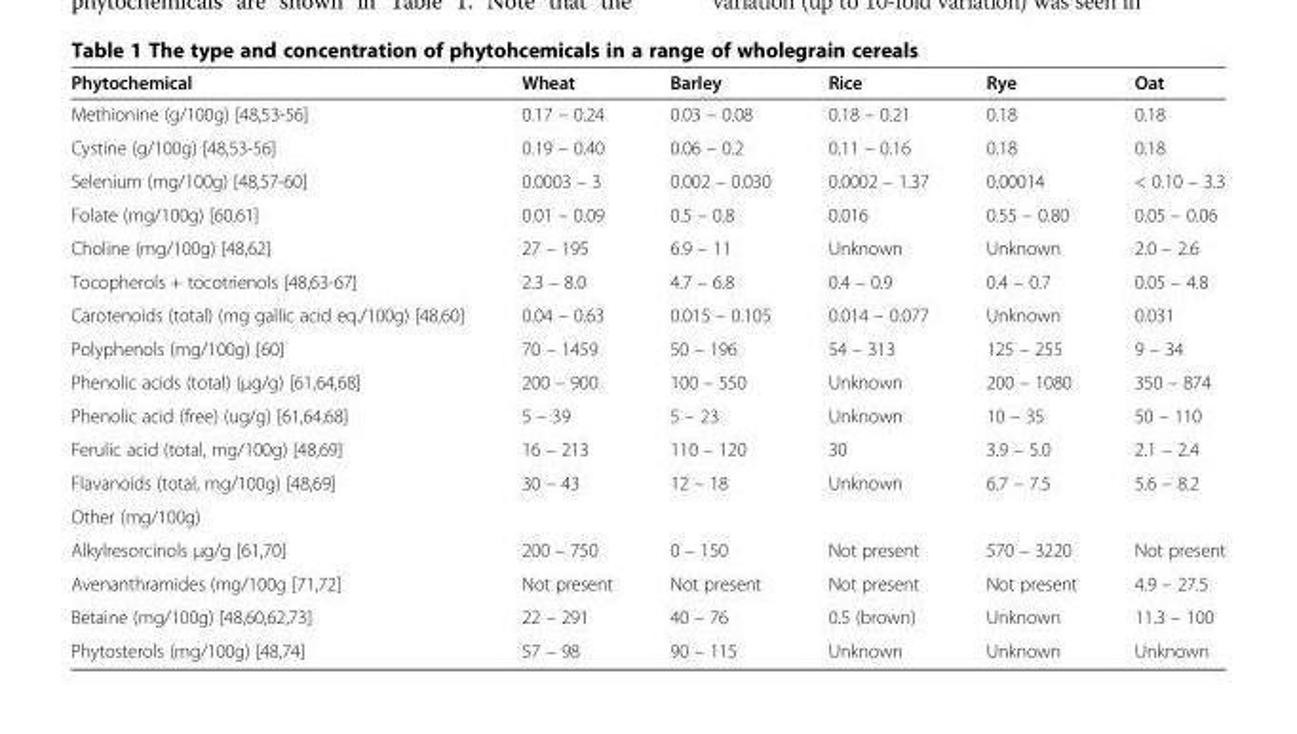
<table><thead><tr><td>Phytochemical</td><td>Wheat</td><td>Barley</td><td>Rice</td><td>Rye</td><td>Oat</td></tr></thead><tbody><tr><td>Methionine (g/100g) [48,53-56]</td><td>0.17 – 0.24</td><td>0.03 – 0.08</td><td>0.18 – 0.21</td><td>0.18</td><td>0.18</td></tr><tr><td>Cystine (g/100g) [48,53-56]</td><td>0.19 – 0.40</td><td>0.06 – 0.2</td><td>0.11 – 0.16</td><td>0.18</td><td>0.18</td></tr><tr><td>Selenium (mg/100g) [48,57-60]</td><td>0.0003 – 3</td><td>0.002 – 0.030</td><td>0.0002 – 1.37</td><td>0.00014</td><td>&lt; 0.10 – 3.3</td></tr><tr><td>Folate (mg/100g) [60,61]</td><td>0.01 – 0.09</td><td>0.5 – 0.8</td><td>0.016</td><td>0.55 – 0.80</td><td>0.05 – 0.06</td></tr><tr><td>Choline (mg/100g) [48,62]</td><td>27 – 195</td><td>6.9 – 11</td><td>Unknown</td><td>Unknown</td><td>2.0 – 2.6</td></tr><tr><td>Tocopherols + tocotrienols [48,63-67]</td><td>2.3 – 8.0</td><td>4.7 – 6.8</td><td>0.4 – 0.9</td><td>0.4 – 0.7</td><td>0.05 – 4.8</td></tr><tr><td>Carotenoids (total) (mg gallic acid eq./100g) [48,60]</td><td>0.04 – 0.63</td><td>0.015 – 0.105</td><td>0.014 – 0.077</td><td>Unknown</td><td>0.031</td></tr><tr><td>Polyphenols (mg/100g) [60]</td><td>70 – 1459</td><td>50 – 196</td><td>54 – 313</td><td>125 – 255</td><td>9 – 34</td></tr><tr><td>Phenolic acids (total) (μg/g) [61,64,68]</td><td>200 – 900</td><td>100 – 550</td><td>Unknown</td><td>200 – 1080</td><td>350 – 874</td></tr><tr><td>Phenolic acid (free) (ug/g) [61,64,68]</td><td>5 – 39</td><td>5 – 23</td><td>Unknown</td><td>10 – 35</td><td>50 – 110</td></tr><tr><td>Ferulic acid (total, mg/100g) [48,69]</td><td>16 – 213</td><td>110 – 120</td><td>30</td><td>3.9 – 5.0</td><td>2.1 – 2.4</td></tr><tr><td>Flavanoids (total, mg/100g) [48,69]</td><td>30 – 43</td><td>12 – 18</td><td>Unknown</td><td>6.7 – 7.5</td><td>5.6 – 8.2</td></tr><tr><td colspan="6">Other (mg/100g)</td></tr><tr><td>Alkylresorcinols μg/g [61,70]</td><td>200 – 750</td><td>0 – 150</td><td>Not present</td><td>570 – 3220</td><td>Not present</td></tr><tr><td>Avenanthramides (mg/100g [71,72]</td><td>Not present</td><td>Not present</td><td>Not present</td><td>Not present</td><td>4.9 – 27.5</td></tr><tr><td>Betaine (mg/100g) [48,60,62,73]</td><td>22 – 291</td><td>40 – 76</td><td>0.5 (brown)</td><td>Unknown</td><td>11.3 – 100</td></tr><tr><td>Phytosterols (mg/100g) [48,74]</td><td>57 – 98</td><td>90 – 115</td><td>Unknown</td><td>Unknown</td><td>Unknown</td></tr></tbody></table>